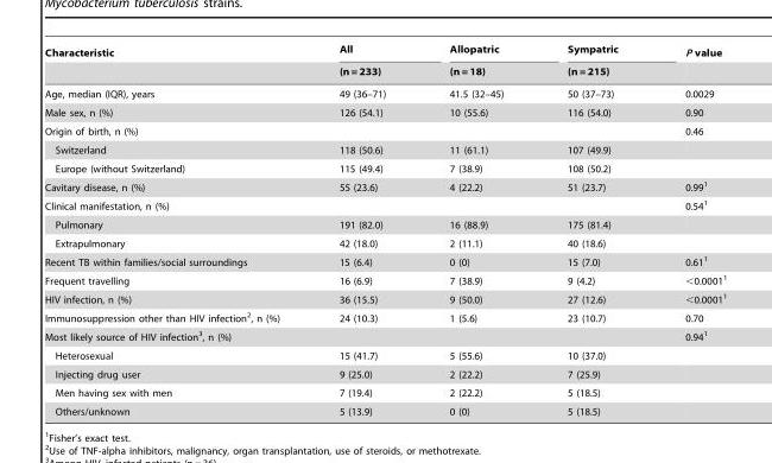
<table><thead><tr><td rowspan="2">Characteristic</td><td rowspan="2">All (n = 233)</td><td rowspan="2">Allopatric (n = 18)</td><td rowspan="2">Sympatric (n = 215)</td><td rowspan="2">P value</td></tr><tr></tr></thead><tbody><tr><td>Age, median (IQR), years</td><td>49 (36–71)</td><td>41.5 (32–45)</td><td>50 (37–73)</td><td>0.0029</td></tr><tr><td>Male sex, n (%)</td><td>126 (54.1)</td><td>10 (55.6)</td><td>116 (54.0)</td><td>0.90</td></tr><tr><td>Origin of birth, n (%)</td><td></td><td></td><td></td><td>0.46</td></tr><tr><td>Switzerland</td><td>118 (50.6)</td><td>11 (61.1)</td><td>107 (49.9)</td><td></td></tr><tr><td>Europe (without Switzerland)</td><td>115 (49.4)</td><td>7 (38.9)</td><td>108 (50.2)</td><td></td></tr><tr><td>Cavitary disease, n (%)</td><td>55 (23.6)</td><td>4 (22.2)</td><td>51 (23.7)</td><td>0.99<sup>1</sup></td></tr><tr><td>Clinical manifestation, n (%)</td><td></td><td></td><td></td><td>0.54<sup>1</sup></td></tr><tr><td>Pulmonary</td><td>191 (82.0)</td><td>16 (88.9)</td><td>175 (81.4)</td><td></td></tr><tr><td>Extrapulmonary</td><td>42 (18.0)</td><td>2 (11.1)</td><td>40 (18.6)</td><td></td></tr><tr><td>Recent TB within families/social surroundings</td><td>15 (6.4)</td><td>0 (0)</td><td>15 (7.0)</td><td>0.61<sup>1</sup></td></tr><tr><td>Frequent travelling</td><td>16 (6.9)</td><td>7 (38.9)</td><td>9 (4.2)</td><td>&lt;0.0001<sup>1</sup></td></tr><tr><td>HIV infection, n (%)</td><td>36 (15.5)</td><td>9 (50.0)</td><td>27 (12.6)</td><td>&lt;0.0001<sup>1</sup></td></tr><tr><td>Immunosuppression other than HIV infection<sup>2</sup>, n (%)</td><td>24 (10.3)</td><td>1 (5.6)</td><td>23 (10.7)</td><td>0.70</td></tr><tr><td>Most likely source of HIV infection<sup>3</sup>, n (%)</td><td></td><td></td><td></td><td>0.94<sup>1</sup></td></tr><tr><td>Heterosexual</td><td>15 (41.7)</td><td>5 (55.6)</td><td>10 (37.0)</td><td></td></tr><tr><td>Injecting drug user</td><td>9 (25.0)</td><td>2 (22.2)</td><td>7 (25.9)</td><td></td></tr><tr><td>Men having sex with men</td><td>7 (19.4)</td><td>2 (22.2)</td><td>5 (18.5)</td><td></td></tr><tr><td>Others/unknown</td><td>5 (13.9)</td><td>0 (0)</td><td>5 (18.5)</td><td></td></tr></tbody></table>